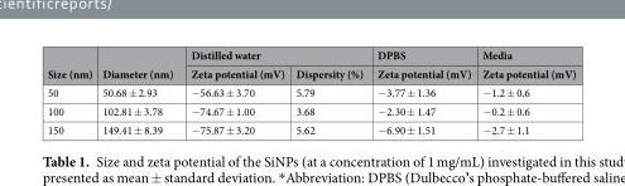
<table><thead><tr><td rowspan="2">Size (nm)</td><td rowspan="2">Diameter (nm)</td><td colspan="2">Distilled water</td><td rowspan="2">DPBS Zeta potential (mV)</td><td rowspan="2">Media Zeta potential (mV)</td></tr><tr><td>Zeta potential (mV)</td><td>Dispersity (%)</td></tr></thead><tbody><tr><td>50</td><td>50.68 ± 2.93</td><td>−56.63 ± 3.70</td><td>5.79</td><td>−3.77 ± 1.36</td><td>−1.2 ± 0.6</td></tr><tr><td>100</td><td>102.81 ± 3.78</td><td>−74.67 ± 1.00</td><td>3.68</td><td>−2.30 ± 1.47</td><td>−0.2 ± 0.6</td></tr><tr><td>150</td><td>149.41 ± 8.39</td><td>−75.87 ± 3.20</td><td>5.62</td><td>−6.90 ± 1.51</td><td>−2.7 ± 1.1</td></tr></tbody></table>